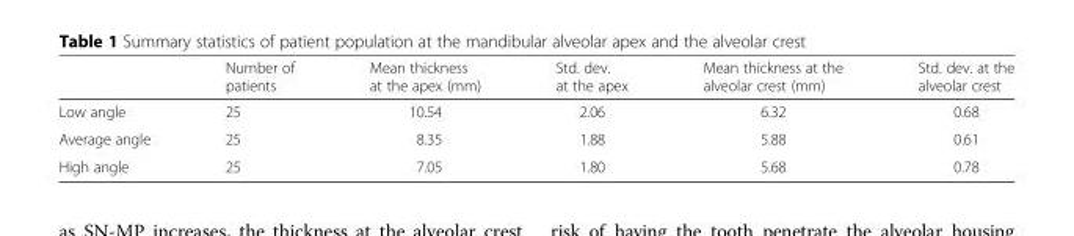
<table><thead><tr><td></td><td>Number of patients</td><td>Mean thickness at the apex (mm)</td><td>Std. dev. at the apex</td><td>Mean thickness at the alveolar crest (mm)</td><td>Std. dev. at the alveolar crest</td></tr></thead><tbody><tr><td>Low angle</td><td>25</td><td>10.54</td><td>2.06</td><td>6.32</td><td>0.68</td></tr><tr><td>Average angle</td><td>25</td><td>8.35</td><td>1.88</td><td>5.88</td><td>0.61</td></tr><tr><td>High angle</td><td>25</td><td>7.05</td><td>1.80</td><td>5.68</td><td>0.78</td></tr></tbody></table>